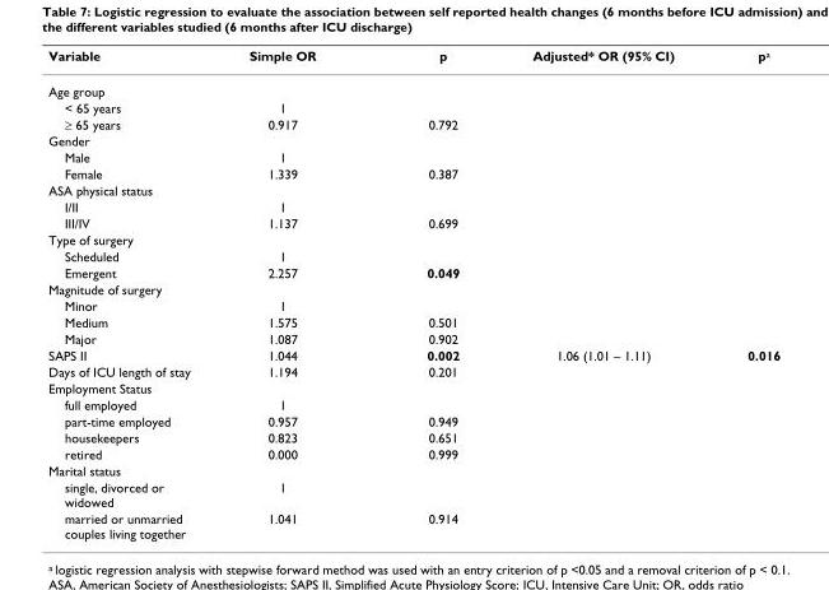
<table><thead><tr><td>Variable</td><td>Simple OR</td><td>p</td><td>Adjusted* OR (95% CI)</td><td>p<sup>a</sup></td></tr></thead><tbody><tr><td colspan="5">Age group</td></tr><tr><td>&lt; 65 years</td><td>1</td><td></td><td></td><td></td></tr><tr><td>≥ 65 years</td><td>0.917</td><td>0.792</td><td></td><td></td></tr><tr><td colspan="5">Gender</td></tr><tr><td>Male</td><td>1</td><td></td><td></td><td></td></tr><tr><td>Female</td><td>1.339</td><td>0.387</td><td></td><td></td></tr><tr><td colspan="5">ASA physical status</td></tr><tr><td>I/II</td><td>1</td><td></td><td></td><td></td></tr><tr><td>III/IV</td><td>1.137</td><td>0.699</td><td></td><td></td></tr><tr><td colspan="5">Type of surgery</td></tr><tr><td>Scheduled</td><td>1</td><td></td><td></td><td></td></tr><tr><td>Emergent</td><td>2.257</td><td>0.049</td><td></td><td></td></tr><tr><td colspan="5">Magnitude of surgery</td></tr><tr><td>Minor</td><td>1</td><td></td><td></td><td></td></tr><tr><td>Medium</td><td>1.575</td><td>0.501</td><td></td><td></td></tr><tr><td>Major</td><td>1.087</td><td>0.902</td><td></td><td></td></tr><tr><td>SAPS II</td><td>1.044</td><td>0.002</td><td>1.06 (1.01 – 1.11)</td><td>0.016</td></tr><tr><td>Days of ICU length of stay</td><td>1.194</td><td>0.201</td><td></td><td></td></tr><tr><td colspan="5">Employment Status</td></tr><tr><td>full employed</td><td>1</td><td></td><td></td><td></td></tr><tr><td>part-time employed</td><td>0.957</td><td>0.949</td><td></td><td></td></tr><tr><td>housekeepers</td><td>0.823</td><td>0.651</td><td></td><td></td></tr><tr><td>retired</td><td>0.000</td><td>0.999</td><td></td><td></td></tr><tr><td colspan="5">Marital status</td></tr><tr><td>single, divorced or widowed</td><td>1</td><td></td><td></td><td></td></tr><tr><td>married or unmarried couples living together</td><td>1.041</td><td>0.914</td><td></td><td></td></tr></tbody></table>